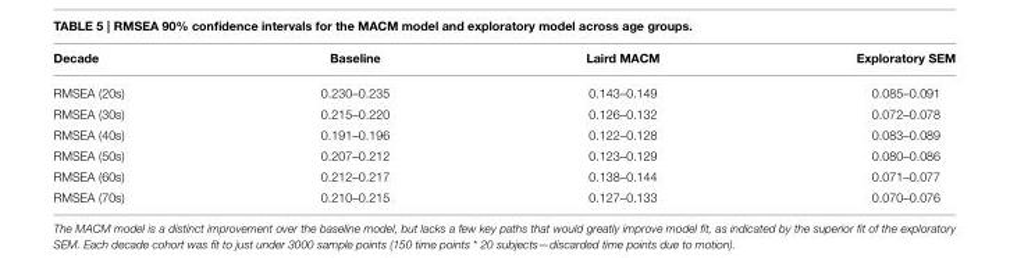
<table><thead><tr><td>Decade</td><td>Baseline</td><td>Laird MACM</td><td>Exploratory SEM</td></tr></thead><tbody><tr><td>RMSEA (20s)</td><td>0.230–0.235</td><td>0.143–0.149</td><td>0.085–0.091</td></tr><tr><td>RMSEA (30s)</td><td>0.215–0.220</td><td>0.126–0.132</td><td>0.072–0.078</td></tr><tr><td>RMSEA (40s)</td><td>0.191–0.196</td><td>0.122–0.128</td><td>0.083–0.089</td></tr><tr><td>RMSEA (50s)</td><td>0.207–0.212</td><td>0.123–0.129</td><td>0.080–0.086</td></tr><tr><td>RMSEA (60s)</td><td>0.212–0.217</td><td>0.138–0.144</td><td>0.071–0.077</td></tr><tr><td>RMSEA (70s)</td><td>0.210–0.215</td><td>0.127–0.133</td><td>0.070–0.076</td></tr></tbody></table>